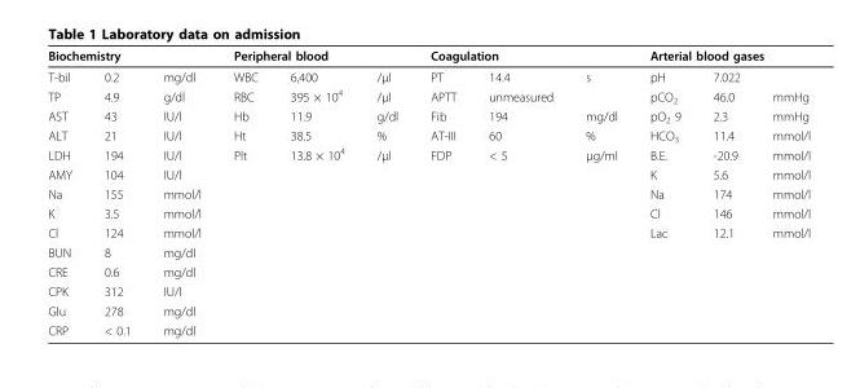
<table><thead><tr><td colspan="3">Biochemistry</td><td colspan="3">Peripheral blood</td><td colspan="3">Coagulation</td><td colspan="3">Arterial blood gases</td></tr><tr><td>T-bil</td><td>0.2</td><td>mg/dl</td><td>WBC</td><td>6,400</td><td>/μl</td><td>PT</td><td>14.4</td><td>s</td><td>pH</td><td>7.022</td><td></td></tr></thead><tbody><tr><td>TP</td><td>4.9</td><td>g/dl</td><td>RBC</td><td>395 × 10<sup>4</sup></td><td>/μl</td><td>APTT</td><td>unmeasured</td><td></td><td>pCO<sub>2</sub></td><td>46.0</td><td>mmHg</td></tr><tr><td>AST</td><td>43</td><td>IU/l</td><td>Hb</td><td>11.9</td><td>g/dl</td><td>Fib</td><td>194</td><td>mg/dl</td><td>pO<sub>2</sub> 9</td><td>2.3</td><td>mmHg</td></tr><tr><td>ALT</td><td>21</td><td>IU/l</td><td>Ht</td><td>38.5</td><td>%</td><td>AT-III</td><td>60</td><td>%</td><td>HCO<sub>3</sub></td><td>11.4</td><td>mmol/l</td></tr><tr><td>LDH</td><td>194</td><td>IU/l</td><td>Plt</td><td>13.8 × 10<sup>4</sup></td><td>/μl</td><td>FDP</td><td>&lt; 5</td><td>μg/ml</td><td>B.E.</td><td>-20.9</td><td>mmol/l</td></tr><tr><td>AMY</td><td>104</td><td>IU/l</td><td></td><td></td><td></td><td></td><td></td><td></td><td>K</td><td>5.6</td><td>mmol/l</td></tr><tr><td>Na</td><td>155</td><td>mmol/l</td><td></td><td></td><td></td><td></td><td></td><td></td><td>Na</td><td>174</td><td>mmol/l</td></tr><tr><td>K</td><td>3.5</td><td>mmol/l</td><td></td><td></td><td></td><td></td><td></td><td></td><td>Cl</td><td>146</td><td>mmol/l</td></tr><tr><td>Cl</td><td>124</td><td>mmol/l</td><td></td><td></td><td></td><td></td><td></td><td></td><td>Lac</td><td>12.1</td><td>mmol/l</td></tr><tr><td>BUN</td><td>8</td><td>mg/dl</td><td></td><td></td><td></td><td></td><td></td><td></td><td></td><td></td><td></td></tr><tr><td>CRE</td><td>0.6</td><td>mg/dl</td><td></td><td></td><td></td><td></td><td></td><td></td><td></td><td></td><td></td></tr><tr><td>CPK</td><td>312</td><td>IU/l</td><td></td><td></td><td></td><td></td><td></td><td></td><td></td><td></td><td></td></tr><tr><td>Glu</td><td>278</td><td>mg/dl</td><td></td><td></td><td></td><td></td><td></td><td></td><td></td><td></td><td></td></tr><tr><td>CRP</td><td>&lt; 0.1</td><td>mg/dl</td><td></td><td></td><td></td><td></td><td></td><td></td><td></td><td></td><td></td></tr></tbody></table>